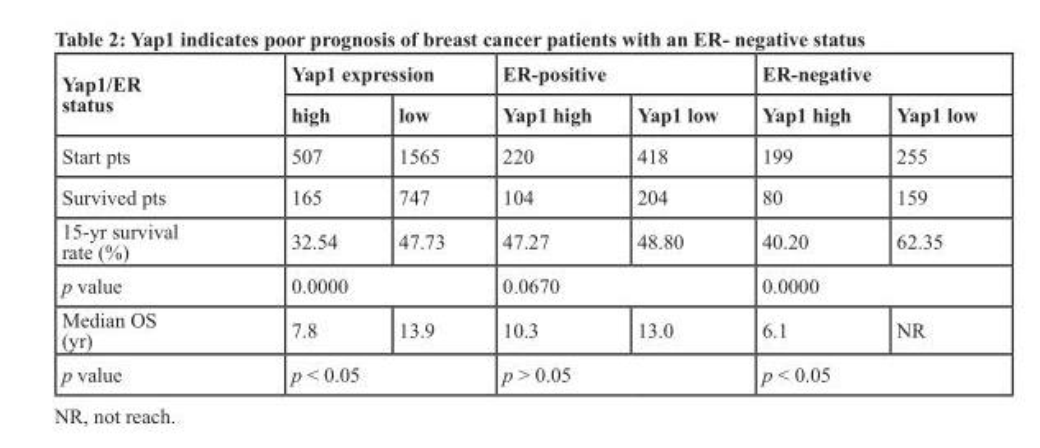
<table><thead><tr><td rowspan="2">Yap1/ER status</td><td colspan="2">Yap1 expression</td><td colspan="2">ER-positive</td><td colspan="2">ER-negative</td></tr><tr><td>high</td><td>low</td><td>Yap1 high</td><td>Yap1 low</td><td>Yap1 high</td><td>Yap1 low</td></tr></thead><tbody><tr><td>Start pts</td><td>507</td><td>1565</td><td>220</td><td>418</td><td>199</td><td>255</td></tr><tr><td>Survived pts</td><td>165</td><td>747</td><td>104</td><td>204</td><td>80</td><td>159</td></tr><tr><td>15-yr survival rate (%)</td><td>32.54</td><td>47.73</td><td>47.27</td><td>48.80</td><td>40.20</td><td>62.35</td></tr><tr><td>p value</td><td colspan="2">0.0000</td><td colspan="2">0.0670</td><td colspan="2">0.0000</td></tr><tr><td>Median OS (yr)</td><td>7.8</td><td>13.9</td><td>10.3</td><td>13.0</td><td>6.1</td><td>NR</td></tr><tr><td>p value</td><td colspan="2">p &lt; 0.05</td><td colspan="2">p &gt; 0.05</td><td colspan="2">p &lt; 0.05</td></tr></tbody></table>